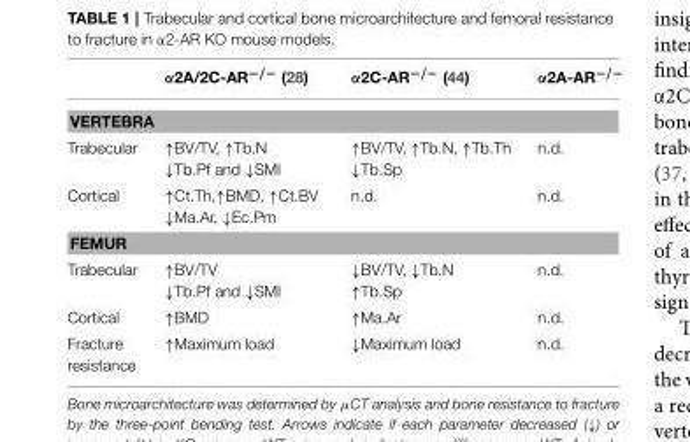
<table><thead><tr><td></td><td>α2A/2C-AR<sup>−/−</sup> (28)</td><td>α2C-AR<sup>−/−</sup> (44)</td><td>α2A-AR<sup>−/−</sup></td></tr></thead><tbody><tr><td colspan="4">VERTEBRA</td></tr><tr><td>Trabecular</td><td>↑BV/TV, ↑Tb.N ↓Tb.Pf and ↓SMI</td><td>↑BV/TV, ↑Tb.N, ↑Tb.Th ↓Tb.Sp</td><td>n.d.</td></tr><tr><td>Cortical</td><td>↑Ct.Th,↑BMD, ↑Ct.BV ↓Ma.Ar, ↓Ec.Pm</td><td>n.d.</td><td>n.d.</td></tr><tr><td colspan="4">FEMUR</td></tr><tr><td>Trabecular</td><td>↑BV/TV ↓Tb.Pf and ↓SMI</td><td>↓BV/TV, ↓Tb.N ↑Tb.Sp</td><td>n.d.</td></tr><tr><td>Cortical</td><td>↑BMD</td><td>↑Ma.Ar</td><td>n.d.</td></tr><tr><td>Fracture resistance</td><td>↑Maximum load</td><td>↓Maximum load</td><td>n.d.</td></tr></tbody></table>